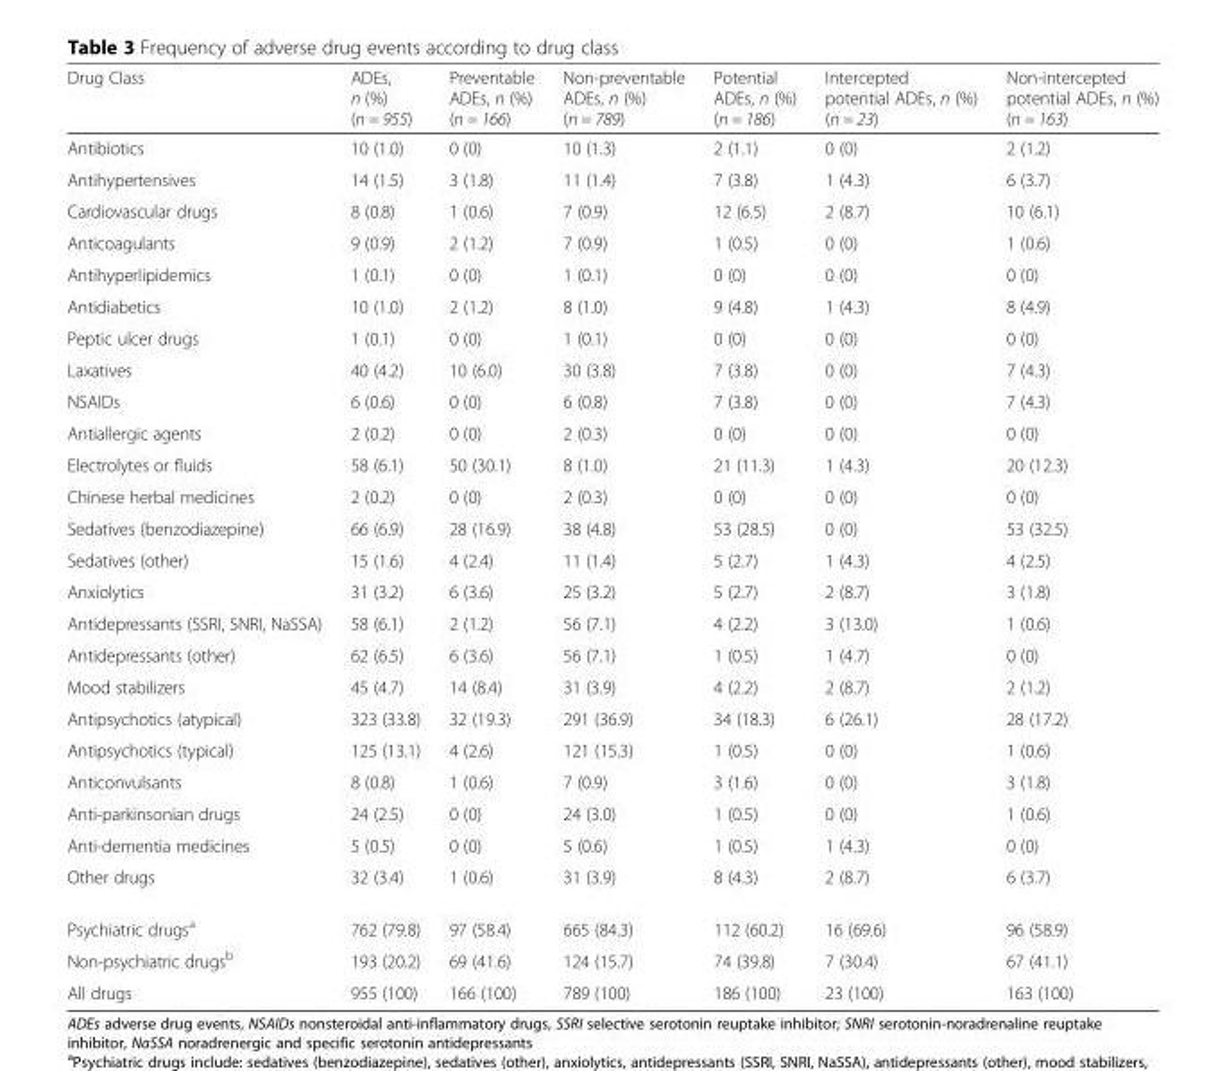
<table><thead><tr><td>Drug Class</td><td>ADEs, n (%) (n = 955)</td><td>Preventable ADEs, n (%) (n = 166)</td><td>Non-preventable ADEs, n (%) (n = 789)</td><td>Potential ADEs, n (%) (n = 186)</td><td>Intercepted potential ADEs, n (%) (n = 23)</td><td>Non-intercepted potential ADEs, n (%) (n = 163)</td></tr></thead><tbody><tr><td>Antibiotics</td><td>10 (1.0)</td><td>0 (0)</td><td>10 (1.3)</td><td>2 (1.1)</td><td>0 (0)</td><td>2 (1.2)</td></tr><tr><td>Antihypertensives</td><td>14 (1.5)</td><td>3 (1.8)</td><td>11 (1.4)</td><td>7 (3.8)</td><td>1 (4.3)</td><td>6 (3.7)</td></tr><tr><td>Cardiovascular drugs</td><td>8 (0.8)</td><td>1 (0.6)</td><td>7 (0.9)</td><td>12 (6.5)</td><td>2 (8.7)</td><td>10 (6.1)</td></tr><tr><td>Anticoagulants</td><td>9 (0.9)</td><td>2 (1.2)</td><td>7 (0.9)</td><td>1 (0.5)</td><td>0 (0)</td><td>1 (0.6)</td></tr><tr><td>Antihyperlipidemics</td><td>1 (0.1)</td><td>0 (0)</td><td>1 (0.1)</td><td>0 (0)</td><td>0 (0)</td><td>0 (0)</td></tr><tr><td>Antidiabetics</td><td>10 (1.0)</td><td>2 (1.2)</td><td>8 (1.0)</td><td>9 (4.8)</td><td>1 (4.3)</td><td>8 (4.9)</td></tr><tr><td>Peptic ulcer drugs</td><td>1 (0.1)</td><td>0 (0)</td><td>1 (0.1)</td><td>0 (0)</td><td>0 (0)</td><td>0 (0)</td></tr><tr><td>Laxatives</td><td>40 (4.2)</td><td>10 (6.0)</td><td>30 (3.8)</td><td>7 (3.8)</td><td>0 (0)</td><td>7 (4.3)</td></tr><tr><td>NSAIDs</td><td>6 (0.6)</td><td>0 (0)</td><td>6 (0.8)</td><td>7 (3.8)</td><td>0 (0)</td><td>7 (4.3)</td></tr><tr><td>Antiallergic agents</td><td>2 (0.2)</td><td>0 (0)</td><td>2 (0.3)</td><td>0 (0)</td><td>0 (0)</td><td>0 (0)</td></tr><tr><td>Electrolytes or fluids</td><td>58 (6.1)</td><td>50 (30.1)</td><td>8 (1.0)</td><td>21 (11.3)</td><td>1 (4.3)</td><td>20 (12.3)</td></tr><tr><td>Chinese herbal medicines</td><td>2 (0.2)</td><td>0 (0)</td><td>2 (0.3)</td><td>0 (0)</td><td>0 (0)</td><td>0 (0)</td></tr><tr><td>Sedatives (benzodiazepine)</td><td>66 (6.9)</td><td>28 (16.9)</td><td>38 (4.8)</td><td>53 (28.5)</td><td>0 (0)</td><td>53 (32.5)</td></tr><tr><td>Sedatives (other)</td><td>15 (1.6)</td><td>4 (2.4)</td><td>11 (1.4)</td><td>5 (2.7)</td><td>1 (4.3)</td><td>4 (2.5)</td></tr><tr><td>Anxiolytics</td><td>31 (3.2)</td><td>6 (3.6)</td><td>25 (3.2)</td><td>5 (2.7)</td><td>2 (8.7)</td><td>3 (1.8)</td></tr><tr><td>Antidepressants (SSRI, SNRI, NaSSA)</td><td>58 (6.1)</td><td>2 (1.2)</td><td>56 (7.1)</td><td>4 (2.2)</td><td>3 (13.0)</td><td>1 (0.6)</td></tr><tr><td>Antidepressants (other)</td><td>62 (6.5)</td><td>6 (3.6)</td><td>56 (7.1)</td><td>1 (0.5)</td><td>1 (4.7)</td><td>0 (0)</td></tr><tr><td>Mood stabilizers</td><td>45 (4.7)</td><td>14 (8.4)</td><td>31 (3.9)</td><td>4 (2.2)</td><td>2 (8.7)</td><td>2 (1.2)</td></tr><tr><td>Antipsychotics (atypical)</td><td>323 (33.8)</td><td>32 (19.3)</td><td>291 (36.9)</td><td>34 (18.3)</td><td>6 (26.1)</td><td>28 (17.2)</td></tr><tr><td>Antipsychotics (typical)</td><td>125 (13.1)</td><td>4 (2.6)</td><td>121 (15.3)</td><td>1 (0.5)</td><td>0 (0)</td><td>1 (0.6)</td></tr><tr><td>Anticonvulsants</td><td>8 (0.8)</td><td>1 (0.6)</td><td>7 (0.9)</td><td>3 (1.6)</td><td>0 (0)</td><td>3 (1.8)</td></tr><tr><td>Anti-parkinsonian drugs</td><td>24 (2.5)</td><td>0 (0)</td><td>24 (3.0)</td><td>1 (0.5)</td><td>0 (0)</td><td>1 (0.6)</td></tr><tr><td>Anti-dementia medicines</td><td>5 (0.5)</td><td>0 (0)</td><td>5 (0.6)</td><td>1 (0.5)</td><td>1 (4.3)</td><td>0 (0)</td></tr><tr><td>Other drugs</td><td>32 (3.4)</td><td>1 (0.6)</td><td>31 (3.9)</td><td>8 (4.3)</td><td>2 (8.7)</td><td>6 (3.7)</td></tr><tr><td>Psychiatric drugs<sup>a</sup></td><td>762 (79.8)</td><td>97 (58.4)</td><td>665 (84.3)</td><td>112 (60.2)</td><td>16 (69.6)</td><td>96 (58.9)</td></tr><tr><td>Non-psychiatric drugs<sup>b</sup></td><td>193 (20.2)</td><td>69 (41.6)</td><td>124 (15.7)</td><td>74 (39.8)</td><td>7 (30.4)</td><td>67 (41.1)</td></tr><tr><td>All drugs</td><td>955 (100)</td><td>166 (100)</td><td>789 (100)</td><td>186 (100)</td><td>23 (100)</td><td>163 (100)</td></tr></tbody></table>